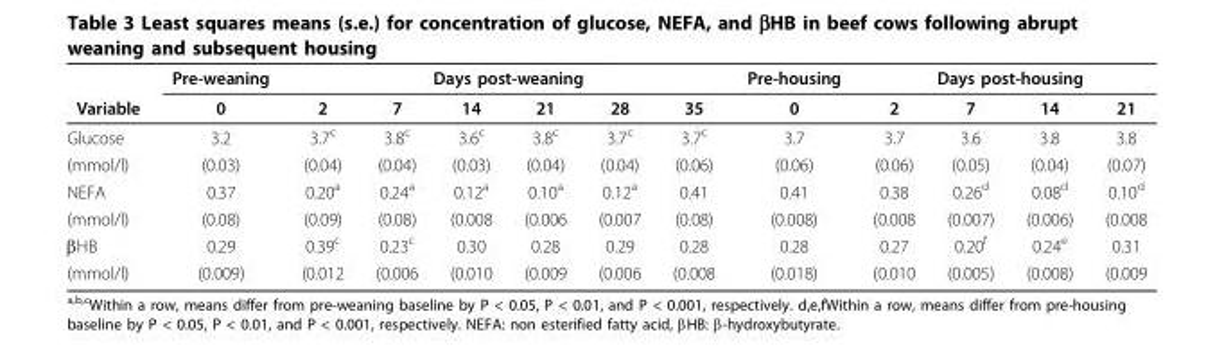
<table><thead><tr><td rowspan="2">Variable</td><td rowspan="2">Pre-weaning 0</td><td colspan="6">Days post-weaning</td><td rowspan="2">Pre-housing 0</td><td colspan="4">Days post-housing</td></tr><tr><td>2</td><td>7</td><td>14</td><td>21</td><td>28</td><td>35</td><td>2</td><td>7</td><td>14</td><td>21</td></tr></thead><tbody><tr><td>Glucose</td><td>3.2</td><td>3.7<sup>c</sup></td><td>3.8<sup>c</sup></td><td>3.6<sup>c</sup></td><td>3.8<sup>c</sup></td><td>3.7<sup>c</sup></td><td>3.7<sup>c</sup></td><td>3.7</td><td>3.7</td><td>3.6</td><td>3.8</td><td>3.8</td></tr><tr><td>(mmol/l)</td><td>(0.03)</td><td>(0.04)</td><td>(0.04)</td><td>(0.03)</td><td>(0.04)</td><td>(0.04)</td><td>(0.06)</td><td>(0.06)</td><td>(0.06)</td><td>(0.05)</td><td>(0.04)</td><td>(0.07)</td></tr><tr><td>NEFA</td><td>0.37</td><td>0.20<sup>a</sup></td><td>0.24<sup>a</sup></td><td>0.12<sup>a</sup></td><td>0.10<sup>a</sup></td><td>0.12<sup>a</sup></td><td>0.41</td><td>0.41</td><td>0.38</td><td>0.26<sup>d</sup></td><td>0.08<sup>d</sup></td><td>0.10<sup>d</sup></td></tr><tr><td>(mmol/l)</td><td>(0.08)</td><td>(0.09)</td><td>(0.08)</td><td>(0.008</td><td>(0.006</td><td>(0.007</td><td>(0.08)</td><td>(0.008)</td><td>(0.008</td><td>(0.007)</td><td>(0.006)</td><td>(0.008</td></tr><tr><td>βHB</td><td>0.29</td><td>0.39<sup>c</sup></td><td>0.23<sup>c</sup></td><td>0.30</td><td>0.28</td><td>0.29</td><td>0.28</td><td>0.28</td><td>0.27</td><td>0.20<sup>f</sup></td><td>0.24<sup>e</sup></td><td>0.31</td></tr><tr><td>(mmol/l)</td><td>(0.009)</td><td>(0.012</td><td>(0.006</td><td>(0.010</td><td>(0.009</td><td>(0.006</td><td>(0.008</td><td>(0.018)</td><td>(0.010</td><td>(0.005)</td><td>(0.008)</td><td>(0.009</td></tr></tbody></table>